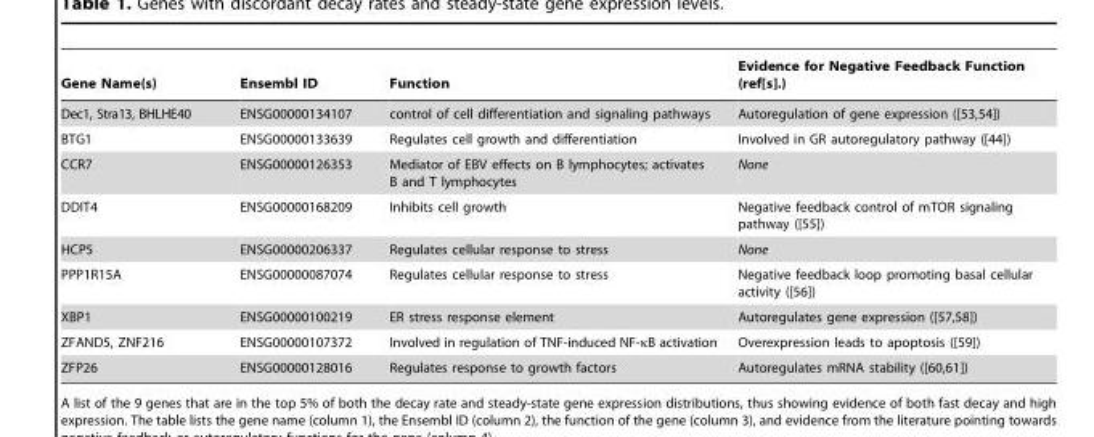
<table><thead><tr><td>Gene Name(s)</td><td>Ensembl ID</td><td>Function</td><td>Evidence for Negative Feedback Function (ref[s].)</td></tr></thead><tbody><tr><td>Dec1, Stra13, BHLHE40</td><td>ENSG00000134107</td><td>control of cell differentiation and signaling pathways</td><td>Autoregulation of gene expression ([53,54])</td></tr><tr><td>BTG1</td><td>ENSG00000133639</td><td>Regulates cell growth and differentiation</td><td>Involved in GR autoregulatory pathway ([44])</td></tr><tr><td>CCR7</td><td>ENSG00000126353</td><td>Mediator of EBV effects on B lymphocytes; activates B and T lymphocytes</td><td>None</td></tr><tr><td>DDIT4</td><td>ENSG00000168209</td><td>Inhibits cell growth</td><td>Negative feedback control of mTOR signaling pathway ([55])</td></tr><tr><td>HCP5</td><td>ENSG00000206337</td><td>Regulates cellular response to stress</td><td>None</td></tr><tr><td>PPP1R15A</td><td>ENSG00000087074</td><td>Regulates cellular response to stress</td><td>Negative feedback loop promoting basal cellular activity ([56])</td></tr><tr><td>XBP1</td><td>ENSG00000100219</td><td>ER stress response element</td><td>Autoregulates gene expression ([57,58])</td></tr><tr><td>ZFAND5, ZNF216</td><td>ENSG00000107372</td><td>Involved in regulation of TNF-induced NF-κB activation</td><td>Overexpression leads to apoptosis ([59])</td></tr><tr><td>ZFP26</td><td>ENSG00000128016</td><td>Regulates response to growth factors</td><td>Autoregulates mRNA stability ([60,61])</td></tr></tbody></table>